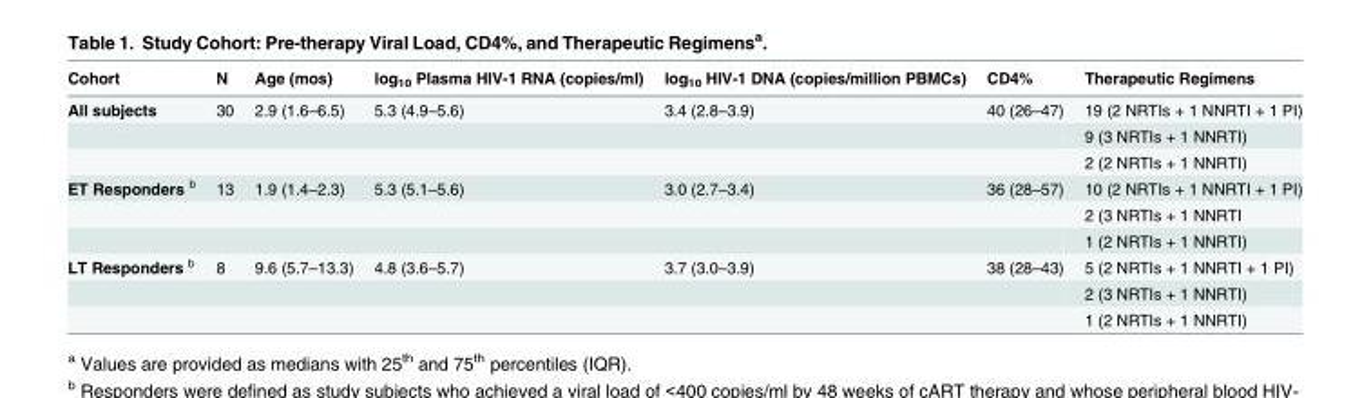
<table><thead><tr><td>Cohort</td><td>N</td><td>Age (mos)</td><td>log<sub>10</sub> Plasma HIV-1 RNA (copies/ml)</td><td>log<sub>10</sub> HIV-1 DNA (copies/million PBMCs)</td><td>CD4%</td><td>Therapeutic Regimens</td></tr></thead><tbody><tr><td rowspan="3">All subjects</td><td>30</td><td>2.9 (1.6–6.5)</td><td>5.3 (4.9–5.6)</td><td>3.4 (2.8–3.9)</td><td>40 (26–47)</td><td>19 (2 NRTIs + 1 NNRTI + 1 PI)</td></tr><tr><td></td><td></td><td></td><td></td><td></td><td>9 (3 NRTIs + 1 NNRTI)</td></tr><tr><td></td><td></td><td></td><td></td><td></td><td>2 (2 NRTIs + 1 NNRTI)</td></tr><tr><td rowspan="3">ET Responders <sup>b</sup></td><td>13</td><td>1.9 (1.4–2.3)</td><td>5.3 (5.1–5.6)</td><td>3.0 (2.7–3.4)</td><td>36 (28–57)</td><td>10 (2 NRTIs + 1 NNRTI + 1 PI)</td></tr><tr><td></td><td></td><td></td><td></td><td></td><td>2 (3 NRTIs + 1 NNRTI</td></tr><tr><td></td><td></td><td></td><td></td><td></td><td>1 (2 NRTIs + 1 NNRTI)</td></tr><tr><td rowspan="3">LT Responders <sup>b</sup></td><td>8</td><td>9.6 (5.7–13.3)</td><td>4.8 (3.6–5.7)</td><td>3.7 (3.0–3.9)</td><td>38 (28–43)</td><td>5 (2 NRTIs + 1 NNRTI + 1 PI)</td></tr><tr><td></td><td></td><td></td><td></td><td></td><td>2 (3 NRTIs + 1 NNRTI)</td></tr><tr><td></td><td></td><td></td><td></td><td></td><td>1 (2 NRTIs + 1 NNRTI)</td></tr></tbody></table>